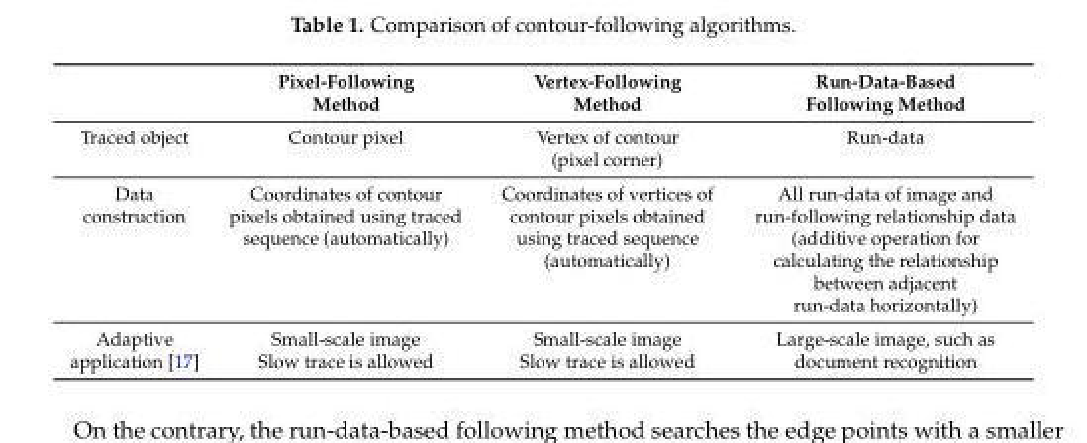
<table><thead><tr><td></td><td>Pixel-Following Method</td><td>Vertex-Following Method</td><td>Run-Data-Based Following Method</td></tr></thead><tbody><tr><td>Traced object</td><td>Contour pixel</td><td>Vertex of contour (pixel corner)</td><td>Run-data</td></tr><tr><td>Data construction</td><td>Coordinates of contour pixels obtained using traced sequence (automatically)</td><td>Coordinates of vertices of contour pixels obtained using traced sequence (automatically)</td><td>All run-data of image and run-following relationship data (additive operation for calculating the relationship between adjacent run-data horizontally)</td></tr><tr><td>Adaptive application [17]</td><td>Small-scale image Slow trace is allowed</td><td>Small-scale image Slow trace is allowed</td><td>Large-scale image, such as document recognition</td></tr></tbody></table>